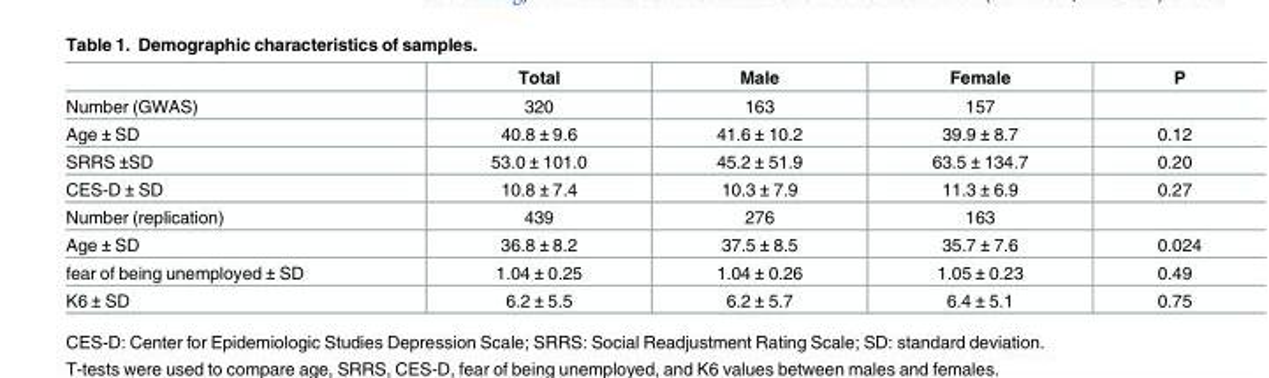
<table><thead><tr><td></td><td>Total</td><td>Male</td><td>Female</td><td>P</td></tr></thead><tbody><tr><td>Number (GWAS)</td><td>320</td><td>163</td><td>157</td><td></td></tr><tr><td>Age ± SD</td><td>40.8 ± 9.6</td><td>41.6 ± 10.2</td><td>39.9 ± 8.7</td><td>0.12</td></tr><tr><td>SRRS ±SD</td><td>53.0 ± 101.0</td><td>45.2 ± 51.9</td><td>63.5 ± 134.7</td><td>0.20</td></tr><tr><td>CES-D ± SD</td><td>10.8 ± 7.4</td><td>10.3 ± 7.9</td><td>11.3 ± 6.9</td><td>0.27</td></tr><tr><td>Number (replication)</td><td>439</td><td>276</td><td>163</td><td></td></tr><tr><td>Age ± SD</td><td>36.8 ± 8.2</td><td>37.5 ± 8.5</td><td>35.7 ± 7.6</td><td>0.024</td></tr><tr><td>fear of being unemployed ± SD</td><td>1.04 ± 0.25</td><td>1.04 ± 0.26</td><td>1.05 ± 0.23</td><td>0.49</td></tr><tr><td>K6 ± SD</td><td>6.2 ± 5.5</td><td>6.2 ± 5.7</td><td>6.4 ± 5.1</td><td>0.75</td></tr></tbody></table>